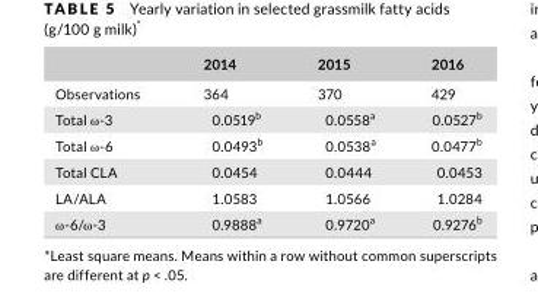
<table><thead><tr><td></td><td>2014</td><td>2015</td><td>2016</td></tr></thead><tbody><tr><td>Observations</td><td>364</td><td>370</td><td>429</td></tr><tr><td>Total ω- 3</td><td>0.0519<sup>b</sup></td><td>0.0558<sup>a</sup></td><td>0.0527<sup>b</sup></td></tr><tr><td>Total ω- 6</td><td>0.0493<sup>b</sup></td><td>0.0538<sup>a</sup></td><td>0.0477<sup>b</sup></td></tr><tr><td>Total CLA</td><td>0.0454</td><td>0.0444</td><td>0.0453</td></tr><tr><td>LA/ALA</td><td>1.0583</td><td>1.0566</td><td>1.0284</td></tr><tr><td>ω- 6/ω- 3</td><td>0.9888<sup>a</sup></td><td>0.9720<sup>a</sup></td><td>0.9276<sup>b</sup></td></tr></tbody></table>